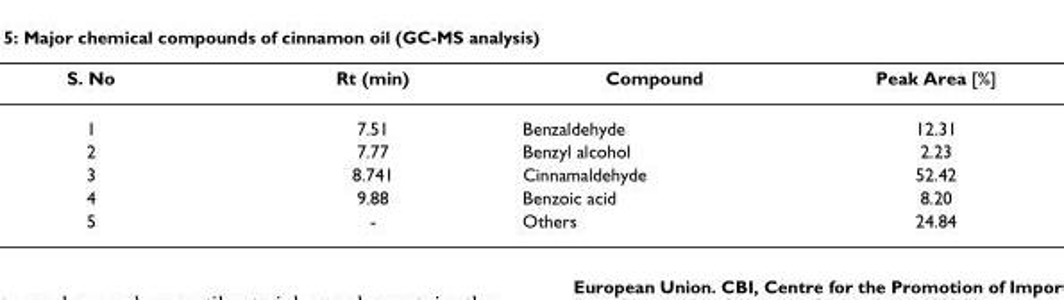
<table><thead><tr><td>S. No</td><td>Rt (min)</td><td>Compound</td><td>Peak Area [%]</td></tr></thead><tbody><tr><td>1</td><td>7.51</td><td>Benzaldehyde</td><td>12.31</td></tr><tr><td>2</td><td>7.77</td><td>Benzyl alcohol</td><td>2.23</td></tr><tr><td>3</td><td>8.741</td><td>Cinnamaldehyde</td><td>52.42</td></tr><tr><td>4</td><td>9.88</td><td>Benzoic acid</td><td>8.20</td></tr><tr><td>5</td><td>-</td><td>Others</td><td>24.84</td></tr></tbody></table>